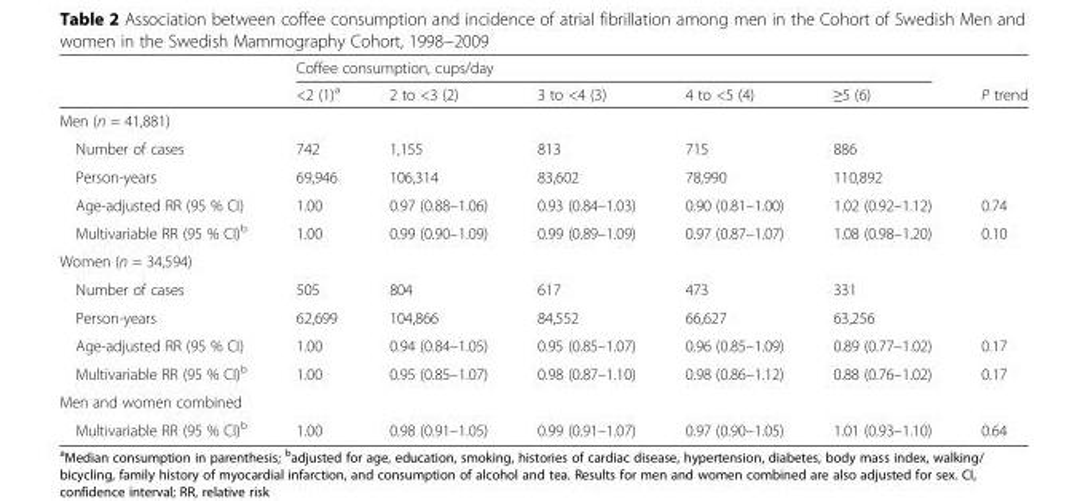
<table><thead><tr><td rowspan="2"></td><td colspan="5">Coffee consumption, cups/day</td><td rowspan="2">P trend</td></tr><tr><td>&lt;2 (1)<sup>a</sup></td><td>2 to &lt;3 (2)</td><td>3 to &lt;4 (3)</td><td>4 to &lt;5 (4)</td><td>≥5 (6)</td></tr></thead><tbody><tr><td colspan="7">Men (n = 41,881)</td></tr><tr><td>Number of cases</td><td>742</td><td>1,155</td><td>813</td><td>715</td><td>886</td><td></td></tr><tr><td>Person-years</td><td>69,946</td><td>106,314</td><td>83,602</td><td>78,990</td><td>110,892</td><td></td></tr><tr><td>Age-adjusted RR (95 % CI)</td><td>1.00</td><td>0.97 (0.88–1.06)</td><td>0.93 (0.84–1.03)</td><td>0.90 (0.81–1.00)</td><td>1.02 (0.92–1.12)</td><td>0.74</td></tr><tr><td>Multivariable RR (95 % CI)<sup>b</sup></td><td>1.00</td><td>0.99 (0.90–1.09)</td><td>0.99 (0.89–1.09)</td><td>0.97 (0.87–1.07)</td><td>1.08 (0.98–1.20)</td><td>0.10</td></tr><tr><td colspan="7">Women (n = 34,594)</td></tr><tr><td>Number of cases</td><td>505</td><td>804</td><td>617</td><td>473</td><td>331</td><td></td></tr><tr><td>Person-years</td><td>62,699</td><td>104,866</td><td>84,552</td><td>66,627</td><td>63,256</td><td></td></tr><tr><td>Age-adjusted RR (95 % CI)</td><td>1.00</td><td>0.94 (0.84–1.05)</td><td>0.95 (0.85–1.07)</td><td>0.96 (0.85–1.09)</td><td>0.89 (0.77–1.02)</td><td>0.17</td></tr><tr><td>Multivariable RR (95 % CI)<sup>b</sup></td><td>1.00</td><td>0.95 (0.85–1.07)</td><td>0.98 (0.87–1.10)</td><td>0.98 (0.86–1.12)</td><td>0.88 (0.76–1.02)</td><td>0.17</td></tr><tr><td colspan="7">Men and women combined</td></tr><tr><td>Multivariable RR (95 % CI)<sup>b</sup></td><td>1.00</td><td>0.98 (0.91–1.05)</td><td>0.99 (0.91–1.07)</td><td>0.97 (0.90–1.05)</td><td>1.01 (0.93–1.10)</td><td>0.64</td></tr></tbody></table>